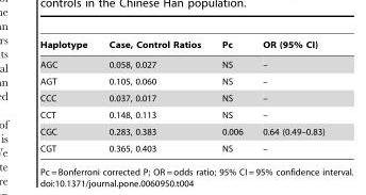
<table><thead><tr><td>Haplotype</td><td>Case, Control Ratios</td><td>Pc</td><td>OR (95% CI)</td></tr></thead><tbody><tr><td>AGC</td><td>0.058, 0.027</td><td>NS</td><td>–</td></tr><tr><td>AGT</td><td>0.105, 0.060</td><td>NS</td><td>–</td></tr><tr><td>CCC</td><td>0.037, 0.017</td><td>NS</td><td>–</td></tr><tr><td>CCT</td><td>0.148, 0.113</td><td>NS</td><td>–</td></tr><tr><td>CGC</td><td>0.283, 0.383</td><td>0.006</td><td>0.64 (0.49–0.83)</td></tr><tr><td>CGT</td><td>0.365, 0.403</td><td>NS</td><td>–</td></tr></tbody></table>